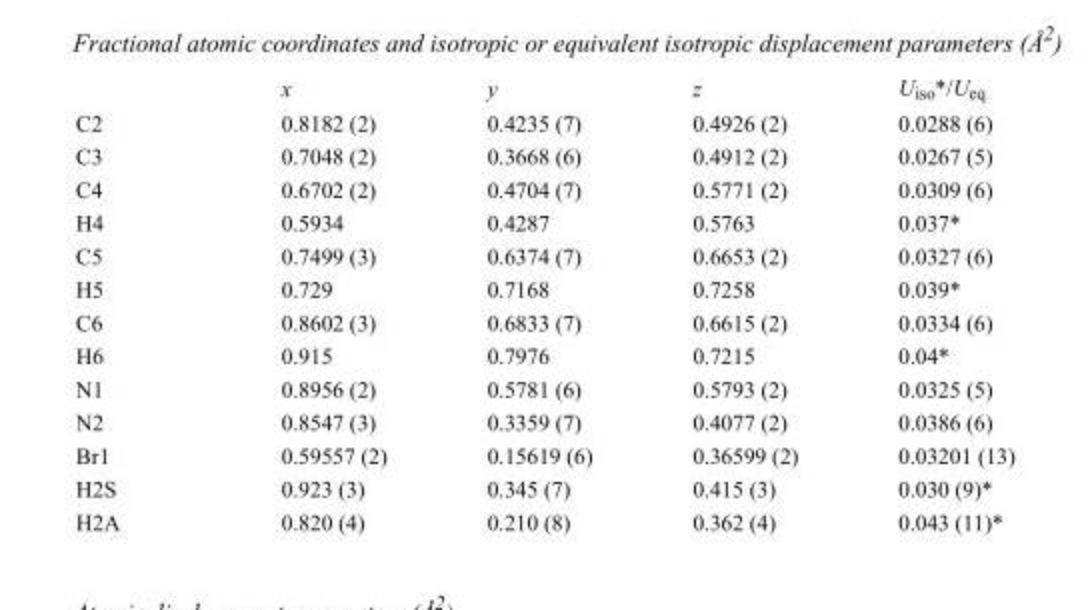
<table><thead><tr><td></td><td>x</td><td>y</td><td>z</td><td>U<sub>iso</sub>*/U<sub>eq</sub></td></tr></thead><tbody><tr><td>C2</td><td>0.8182 (2)</td><td>0.4235 (7)</td><td>0.4926 (2)</td><td>0.0288 (6)</td></tr><tr><td>C3</td><td>0.7048 (2)</td><td>0.3668 (6)</td><td>0.4912 (2)</td><td>0.0267 (5)</td></tr><tr><td>C4</td><td>0.6702 (2)</td><td>0.4704 (7)</td><td>0.5771 (2)</td><td>0.0309 (6)</td></tr><tr><td>H4</td><td>0.5934</td><td>0.4287</td><td>0.5763</td><td>0.037*</td></tr><tr><td>C5</td><td>0.7499 (3)</td><td>0.6374 (7)</td><td>0.6653 (2)</td><td>0.0327 (6)</td></tr><tr><td>H5</td><td>0.729</td><td>0.7168</td><td>0.7258</td><td>0.039*</td></tr><tr><td>C6</td><td>0.8602 (3)</td><td>0.6833 (7)</td><td>0.6615 (2)</td><td>0.0334 (6)</td></tr><tr><td>H6</td><td>0.915</td><td>0.7976</td><td>0.7215</td><td>0.04*</td></tr><tr><td>N1</td><td>0.8956 (2)</td><td>0.5781 (6)</td><td>0.5793 (2)</td><td>0.0325 (5)</td></tr><tr><td>N2</td><td>0.8547 (3)</td><td>0.3359 (7)</td><td>0.4077 (2)</td><td>0.0386 (6)</td></tr><tr><td>Br1</td><td>0.59557 (2)</td><td>0.15619 (6)</td><td>0.36599 (2)</td><td>0.03201 (13)</td></tr><tr><td>H2S</td><td>0.923 (3)</td><td>0.345 (7)</td><td>0.415 (3)</td><td>0.030 (9)*</td></tr><tr><td>H2A</td><td>0.820 (4)</td><td>0.210 (8)</td><td>0.362 (4)</td><td>0.043 (11)*</td></tr></tbody></table>